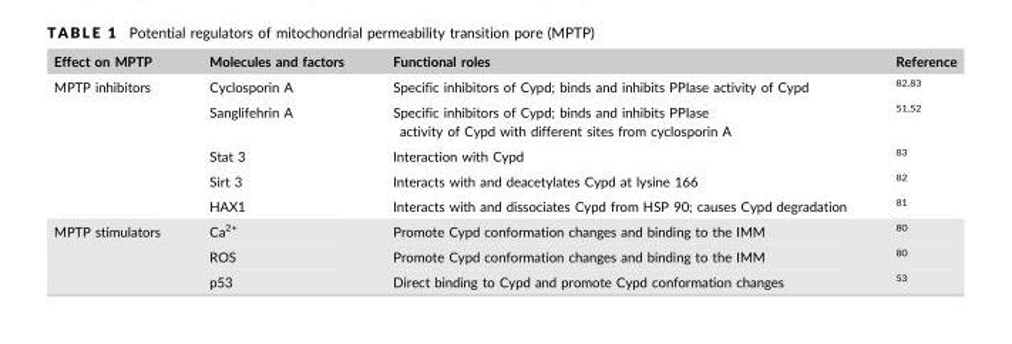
<table><thead><tr><td>Effect on MPTP</td><td>Molecules and factors</td><td>Functional roles</td><td>Reference</td></tr></thead><tbody><tr><td rowspan="5">MPTP inhibitors</td><td>Cyclosporin A</td><td>Specific inhibitors of Cypd; binds and inhibits PPIase activity of Cypd</td><td>82,83</td></tr><tr><td>Sanglifehrin A</td><td>Specific inhibitors of Cypd; binds and inhibits PPIase activity of Cypd with different sites from cyclosporin A</td><td>51,52</td></tr><tr><td>Stat 3</td><td>Interaction with Cypd</td><td>83</td></tr><tr><td>Sirt 3</td><td>Interacts with and deacetylates Cypd at lysine 166</td><td>82</td></tr><tr><td>HAX1</td><td>Interacts with and dissociates Cypd from HSP 90; causes Cypd degradation</td><td>81</td></tr><tr><td rowspan="3">MPTP stimulators</td><td>Ca<sup>2+</sup></td><td>Promote Cypd conformation changes and binding to the IMM</td><td>80</td></tr><tr><td>ROS</td><td>Promote Cypd conformation changes and binding to the IMM</td><td>80</td></tr><tr><td>p53</td><td>Direct binding to Cypd and promote Cypd conformation changes</td><td>53</td></tr></tbody></table>